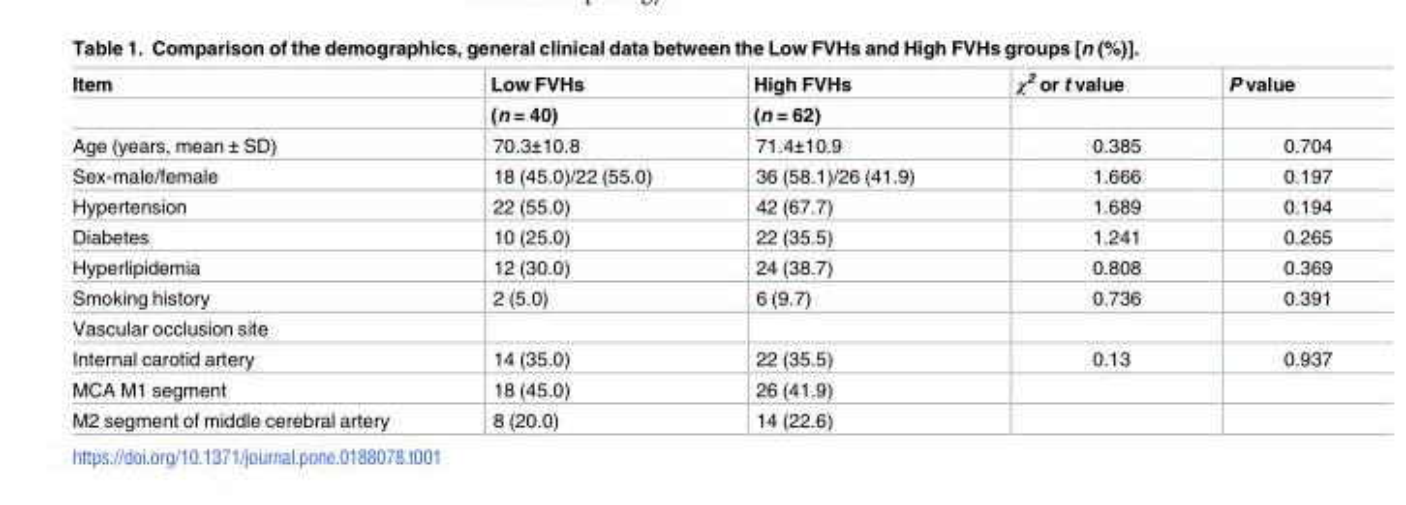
<table><thead><tr><td rowspan="2">Item</td><td rowspan="2">Low FVHs (n = 40)</td><td rowspan="2">High FVHs (n = 62)</td><td rowspan="2">χ<sup>2</sup> or t value</td><td rowspan="2">P value</td></tr><tr></tr></thead><tbody><tr><td>Age (years, mean ± SD)</td><td>70.3±10.8</td><td>71.4±10.9</td><td>0.385</td><td>0.704</td></tr><tr><td>Sex-male/female</td><td>18 (45.0)/22 (55.0)</td><td>36 (58.1)/26 (41.9)</td><td>1.666</td><td>0.197</td></tr><tr><td>Hypertension</td><td>22 (55.0)</td><td>42 (67.7)</td><td>1.689</td><td>0.194</td></tr><tr><td>Diabetes</td><td>10 (25.0)</td><td>22 (35.5)</td><td>1.241</td><td>0.265</td></tr><tr><td>Hyperlipidemia</td><td>12 (30.0)</td><td>24 (38.7)</td><td>0.808</td><td>0.369</td></tr><tr><td>Smoking history</td><td>2 (5.0)</td><td>6 (9.7)</td><td>0.736</td><td>0.391</td></tr><tr><td colspan="5">Vascular occlusion site</td></tr><tr><td>Internal carotid artery</td><td>14 (35.0)</td><td>22 (35.5)</td><td>0.13</td><td>0.937</td></tr><tr><td>MCA M1 segment</td><td>18 (45.0)</td><td>26 (41.9)</td><td></td><td></td></tr><tr><td>M2 segment of middle cerebral artery</td><td>8 (20.0)</td><td>14 (22.6)</td><td></td><td></td></tr></tbody></table>